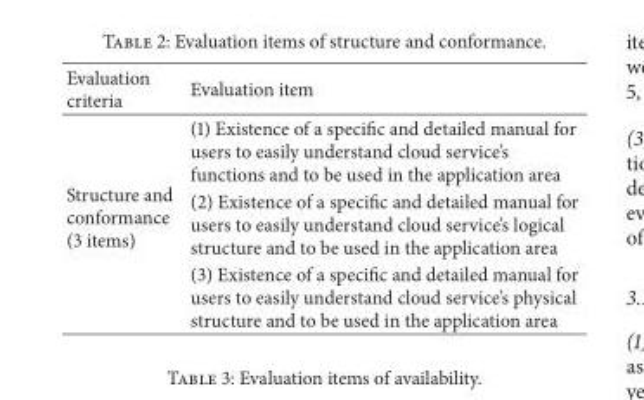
<table><thead><tr><td>Evaluation criteria</td><td>Evaluation item</td></tr></thead><tbody><tr><td rowspan="3">Structure and conformance (3 items)</td><td>(1) Existence of a specific and detailed manual for users to easily understand cloud service’s functions and to be used in the application area</td></tr><tr><td>(2) Existence of a specific and detailed manual for users to easily understand cloud service’s logical structure and to be used in the application area</td></tr><tr><td>(3) Existence of a specific and detailed manual for users to easily understand cloud service’s physical structure and to be used in the application area</td></tr></tbody></table>